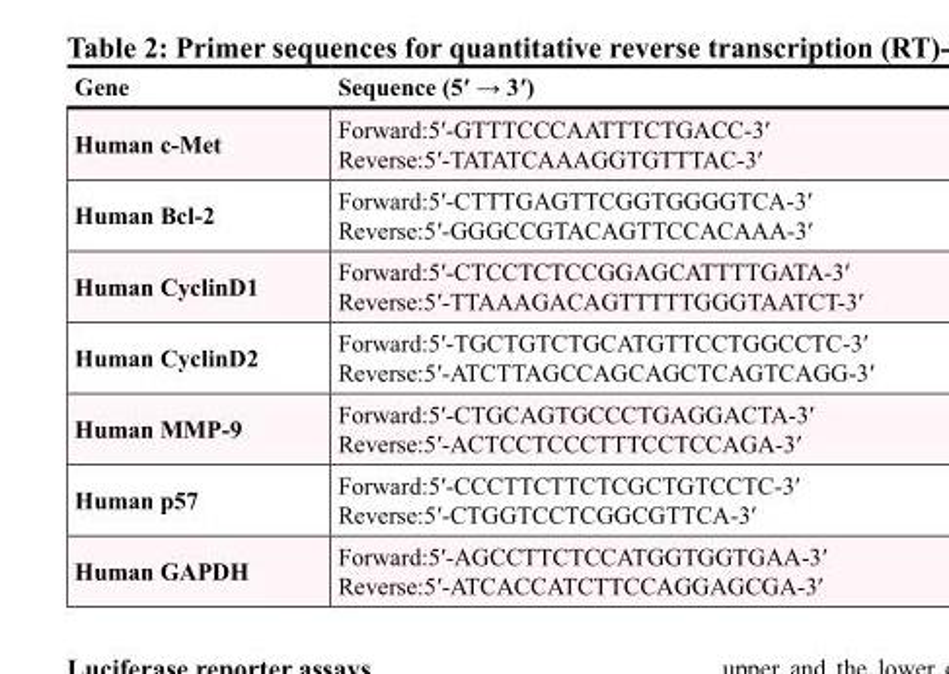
<table><thead><tr><td>Gene</td><td>Sequence (5′ → 3′)</td></tr></thead><tbody><tr><td>Human c-Met</td><td>Forward:5′-GTTTCCCAATTTCTGACC-3′ Reverse:5′-TATATCAAAGGTGTTTAC-3′</td></tr><tr><td>Human Bcl-2</td><td>Forward:5′-CTTTGAGTTCGGTGGGGTCA-3′ Reverse:5′-GGGCCGTACAGTTCCACAAA-3′</td></tr><tr><td>Human CyclinD1</td><td>Forward:5′-CTCCTCTCCGGAGCATTTTGATA-3′ Reverse:5′-TTAAAGACAGTTTTTGGGTAATCT-3′</td></tr><tr><td>Human CyclinD2</td><td>Forward:5′-TGCTGTCTGCATGTTCCTGGCCTC-3′ Reverse:5′-ATCTTAGCCAGCAGCTCAGTCAGG-3′</td></tr><tr><td>Human MMP-9</td><td>Forward:5′-CTGCAGTGCCCTGAGGACTA-3′ Reverse:5′-ACTCCTCCCTTTCCTCCAGA-3′</td></tr><tr><td>Human p57</td><td>Forward:5′-CCCTTCTTCTCGCTGTCCTC-3′ Reverse:5′-CTGGTCCTCGGCGTTCA-3′</td></tr><tr><td>Human GAPDH</td><td>Forward:5′-AGCCTTCTCCATGGTGGTGAA-3′ Reverse:5′-ATCACCATCTTCCAGGAGCGA-3′</td></tr></tbody></table>